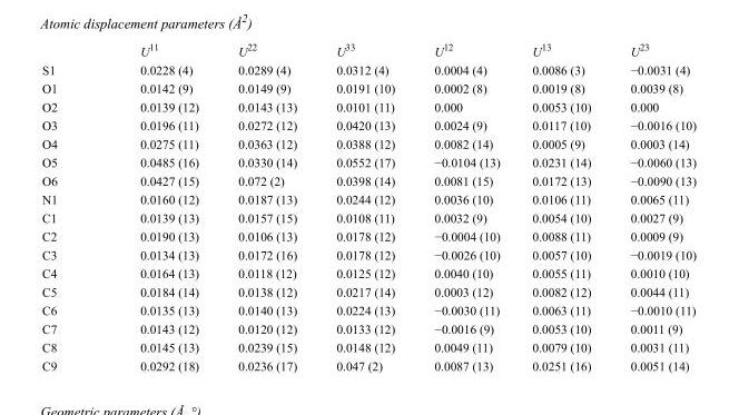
<table><thead><tr><td></td><td>U<sup>11</sup></td><td>U<sup>22</sup></td><td>U<sup>33</sup></td><td>U<sup>12</sup></td><td>U<sup>13</sup></td><td>U<sup>23</sup></td></tr></thead><tbody><tr><td>S1</td><td>0.0228 (4)</td><td>0.0289 (4)</td><td>0.0312 (4)</td><td>0.0004 (4)</td><td>0.0086 (3)</td><td>−0.0031 (4)</td></tr><tr><td>O1</td><td>0.0142 (9)</td><td>0.0149 (9)</td><td>0.0191 (10)</td><td>0.0002 (8)</td><td>0.0019 (8)</td><td>0.0039 (8)</td></tr><tr><td>O2</td><td>0.0139 (12)</td><td>0.0143 (13)</td><td>0.0101 (11)</td><td>0.000</td><td>0.0053 (10)</td><td>0.000</td></tr><tr><td>O3</td><td>0.0196 (11)</td><td>0.0272 (12)</td><td>0.0420 (13)</td><td>0.0024 (9)</td><td>0.0117 (10)</td><td>−0.0016 (10)</td></tr><tr><td>O4</td><td>0.0275 (11)</td><td>0.0363 (12)</td><td>0.0388 (12)</td><td>0.0082 (14)</td><td>0.0005 (9)</td><td>0.0003 (14)</td></tr><tr><td>O5</td><td>0.0485 (16)</td><td>0.0330 (14)</td><td>0.0552 (17)</td><td>−0.0104 (13)</td><td>0.0231 (14)</td><td>−0.0060 (13)</td></tr><tr><td>O6</td><td>0.0427 (15)</td><td>0.072 (2)</td><td>0.0398 (14)</td><td>0.0081 (15)</td><td>0.0172 (13)</td><td>−0.0090 (13)</td></tr><tr><td>N1</td><td>0.0160 (12)</td><td>0.0187 (13)</td><td>0.0244 (12)</td><td>0.0036 (10)</td><td>0.0106 (11)</td><td>0.0065 (11)</td></tr><tr><td>C1</td><td>0.0139 (13)</td><td>0.0157 (15)</td><td>0.0108 (11)</td><td>0.0032 (9)</td><td>0.0054 (10)</td><td>0.0027 (9)</td></tr><tr><td>C2</td><td>0.0190 (13)</td><td>0.0106 (13)</td><td>0.0178 (12)</td><td>−0.0004 (10)</td><td>0.0088 (11)</td><td>0.0009 (9)</td></tr><tr><td>C3</td><td>0.0134 (13)</td><td>0.0172 (16)</td><td>0.0178 (12)</td><td>−0.0026 (10)</td><td>0.0057 (10)</td><td>−0.0019 (10)</td></tr><tr><td>C4</td><td>0.0164 (13)</td><td>0.0118 (12)</td><td>0.0125 (12)</td><td>0.0040 (10)</td><td>0.0055 (11)</td><td>0.0010 (10)</td></tr><tr><td>C5</td><td>0.0184 (14)</td><td>0.0138 (12)</td><td>0.0217 (14)</td><td>0.0003 (12)</td><td>0.0082 (12)</td><td>0.0044 (11)</td></tr><tr><td>C6</td><td>0.0135 (13)</td><td>0.0140 (13)</td><td>0.0224 (13)</td><td>−0.0030 (11)</td><td>0.0063 (11)</td><td>−0.0010 (11)</td></tr><tr><td>C7</td><td>0.0143 (12)</td><td>0.0120 (12)</td><td>0.0133 (12)</td><td>−0.0016 (9)</td><td>0.0053 (10)</td><td>0.0011 (9)</td></tr><tr><td>C8</td><td>0.0145 (13)</td><td>0.0239 (15)</td><td>0.0148 (12)</td><td>0.0049 (11)</td><td>0.0079 (10)</td><td>0.0031 (11)</td></tr><tr><td>C9</td><td>0.0292 (18)</td><td>0.0236 (17)</td><td>0.047 (2)</td><td>0.0087 (13)</td><td>0.0251 (16)</td><td>0.0051 (14)</td></tr></tbody></table>